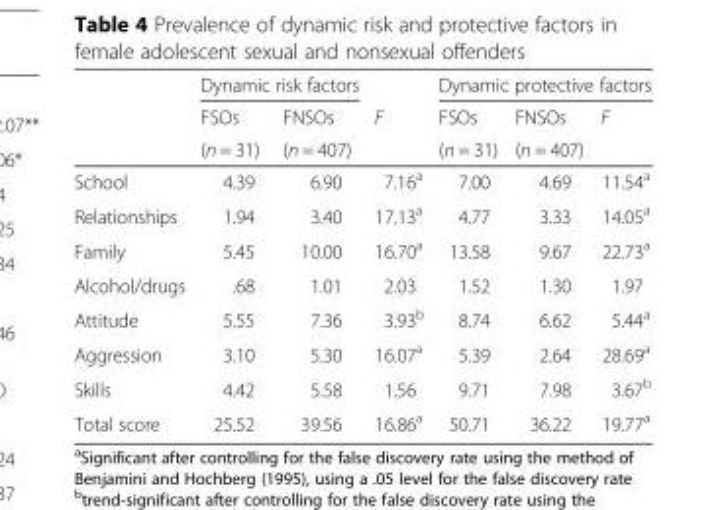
<table><thead><tr><td rowspan="3"></td><td colspan="2">Dynamic risk factors</td><td rowspan="3">F</td><td colspan="3">Dynamic protective factors</td></tr><tr><td rowspan="2">FSOs (n = 31)</td><td rowspan="2">FNSOs (n = 407)</td><td rowspan="2">FSOs (n = 31)</td><td rowspan="2">FNSOs (n = 407)</td><td rowspan="2">F</td></tr><tr></tr></thead><tbody><tr><td>School</td><td>4.39</td><td>6.90</td><td>7.16<sup>a</sup></td><td>7.00</td><td>4.69</td><td>11.54<sup>a</sup></td></tr><tr><td>Relationships</td><td>1.94</td><td>3.40</td><td>17.13<sup>a</sup></td><td>4.77</td><td>3.33</td><td>14.05<sup>a</sup></td></tr><tr><td>Family</td><td>5.45</td><td>10.00</td><td>16.70<sup>a</sup></td><td>13.58</td><td>9.67</td><td>22.73<sup>a</sup></td></tr><tr><td>Alcohol/drugs</td><td>.68</td><td>1.01</td><td>2.03</td><td>1.52</td><td>1.30</td><td>1.97</td></tr><tr><td>Attitude</td><td>5.55</td><td>7.36</td><td>3.93<sup>b</sup></td><td>8.74</td><td>6.62</td><td>5.44<sup>a</sup></td></tr><tr><td>Aggression</td><td>3.10</td><td>5.30</td><td>16.07<sup>a</sup></td><td>5.39</td><td>2.64</td><td>28.69<sup>a</sup></td></tr><tr><td>Skills</td><td>4.42</td><td>5.58</td><td>1.56</td><td>9.71</td><td>7.98</td><td>3.67<sup>b</sup></td></tr><tr><td>Total score</td><td>25.52</td><td>39.56</td><td>16.86<sup>a</sup></td><td>50.71</td><td>36.22</td><td>19.77<sup>a</sup></td></tr></tbody></table>